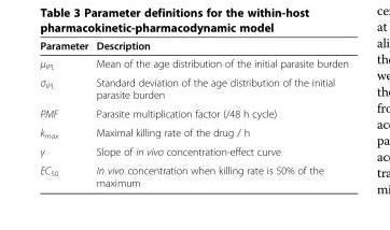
<table><thead><tr><td>Parameter</td><td>Description</td></tr></thead><tbody><tr><td>μ<sub>IPL</sub></td><td>Mean of the age distribution of the initial parasite burden</td></tr><tr><td>σ<sub>IPL</sub></td><td>Standard deviation of the age distribution of the initial parasite burden</td></tr><tr><td>PMF</td><td>Parasite multiplication factor (/48 h cycle)</td></tr><tr><td>k<sub>max</sub></td><td>Maximal killing rate of the drug / h</td></tr><tr><td>γ</td><td>Slope of in vivo concentration-effect curve</td></tr><tr><td>EC<sub>50</sub></td><td>In vivo concentration when killing rate is 50% of the maximum</td></tr></tbody></table>